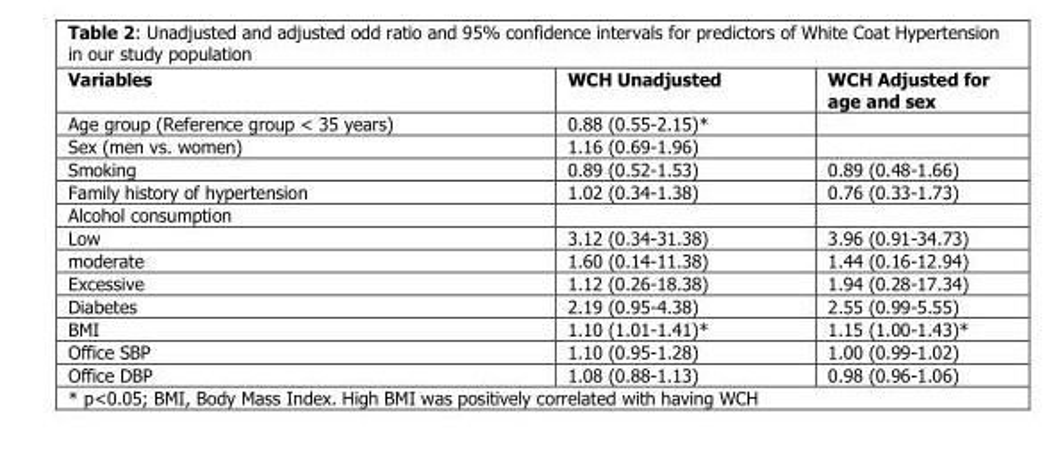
<table><thead><tr><td>Variables</td><td>WCH Unadjusted</td><td>WCH Adjusted for age and sex</td></tr></thead><tbody><tr><td>Age group (Reference group &lt; 35 years)</td><td>0.88 (0.55-2.15)*</td><td></td></tr><tr><td>Sex (men vs. women)</td><td>1.16 (0.69-1.96)</td><td></td></tr><tr><td>Smoking</td><td>0.89 (0.52-1.53)</td><td>0.89 (0.48-1.66)</td></tr><tr><td>Family history of hypertension</td><td>1.02 (0.34-1.38)</td><td>0.76 (0.33-1.73)</td></tr><tr><td colspan="3">Alcohol consumption</td></tr><tr><td>Low</td><td>3.12 (0.34-31.38)</td><td>3.96 (0.91-34.73)</td></tr><tr><td>moderate</td><td>1.60 (0.14-11.38)</td><td>1.44 (0.16-12.94)</td></tr><tr><td>Excessive</td><td>1.12 (0.26-18.38)</td><td>1.94 (0.28-17.34)</td></tr><tr><td>Diabetes</td><td>2.19 (0.95-4.38)</td><td>2.55 (0.99-5.55)</td></tr><tr><td>BMI</td><td>1.10 (1.01-1.41)*</td><td>1.15 (1.00-1.43)*</td></tr><tr><td>Office SBP</td><td>1.10 (0.95-1.28)</td><td>1.00 (0.99-1.02)</td></tr><tr><td>Office DBP</td><td>1.08 (0.88-1.13)</td><td>0.98 (0.96-1.06)</td></tr></tbody></table>